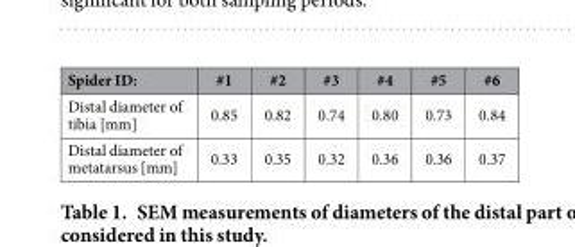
<table><thead><tr><td>Spider ID:</td><td>#1</td><td>#2</td><td>#3</td><td>#4</td><td>#5</td><td>#6</td></tr></thead><tbody><tr><td>Distal diameter of tibia [mm]</td><td>0.85</td><td>0.82</td><td>0.74</td><td>0.80</td><td>0.73</td><td>0.84</td></tr><tr><td>Distal diameter of metatarsus [mm]</td><td>0.33</td><td>0.35</td><td>0.32</td><td>0.36</td><td>0.36</td><td>0.37</td></tr></tbody></table>